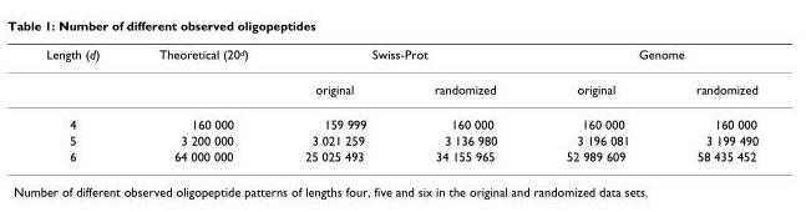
<table><thead><tr><td rowspan="2">Length (d)</td><td rowspan="2">Theoretical (20<sup>d</sup>)</td><td colspan="2">Swiss-Prot</td><td colspan="2">Genome</td></tr><tr><td>original</td><td>randomized</td><td>original</td><td>randomized</td></tr></thead><tbody><tr><td>4</td><td>160 000</td><td>159 999</td><td>160 000</td><td>160 000</td><td>160 000</td></tr><tr><td>5</td><td>3 200 000</td><td>3 021 259</td><td>3 136 980</td><td>3 196 081</td><td>3 199 490</td></tr><tr><td>6</td><td>64 000 000</td><td>25 025 493</td><td>34 155 965</td><td>52 989 609</td><td>58 435 452</td></tr></tbody></table>